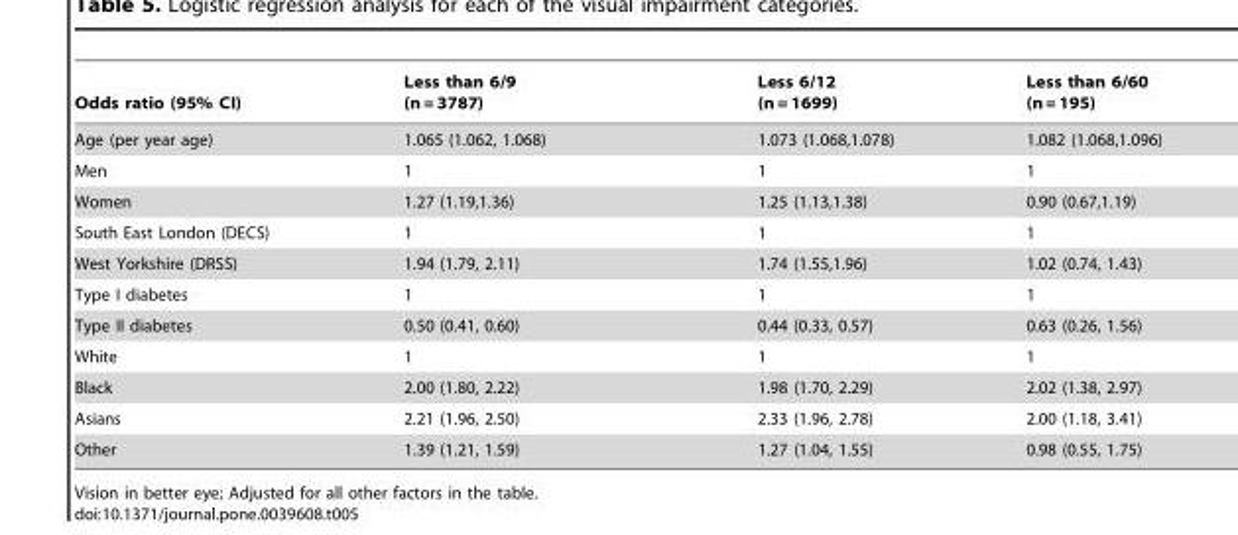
<table><thead><tr><td>Odds ratio (95% CI)</td><td>Less than 6/9 (n = 3787)</td><td>Less 6/12 (n = 1699)</td><td>Less than 6/60 (n = 195)</td></tr></thead><tbody><tr><td>Age (per year age)</td><td>1.065 (1.062, 1.068)</td><td>1.073 (1.068,1.078)</td><td>1.082 (1.068,1.096)</td></tr><tr><td>Men</td><td>1</td><td>1</td><td>1</td></tr><tr><td>Women</td><td>1.27 (1.19,1.36)</td><td>1.25 (1.13,1.38)</td><td>0.90 (0.67,1.19)</td></tr><tr><td>South East London (DECS)</td><td>1</td><td>1</td><td>1</td></tr><tr><td>West Yorkshire (DRSS)</td><td>1.94 (1.79, 2.11)</td><td>1.74 (1.55,1.96)</td><td>1.02 (0.74, 1.43)</td></tr><tr><td>Type I diabetes</td><td>1</td><td>1</td><td>1</td></tr><tr><td>Type II diabetes</td><td>0.50 (0.41, 0.60)</td><td>0.44 (0.33, 0.57)</td><td>0.63 (0.26, 1.56)</td></tr><tr><td>White</td><td>1</td><td>1</td><td>1</td></tr><tr><td>Black</td><td>2.00 (1.80, 2.22)</td><td>1.98 (1.70, 2.29)</td><td>2.02 (1.38, 2.97)</td></tr><tr><td>Asians</td><td>2.21 (1.96, 2.50)</td><td>2.33 (1.96, 2.78)</td><td>2.00 (1.18, 3.41)</td></tr><tr><td>Other</td><td>1.39 (1.21, 1.59)</td><td>1.27 (1.04, 1.55)</td><td>0.98 (0.55, 1.75)</td></tr></tbody></table>